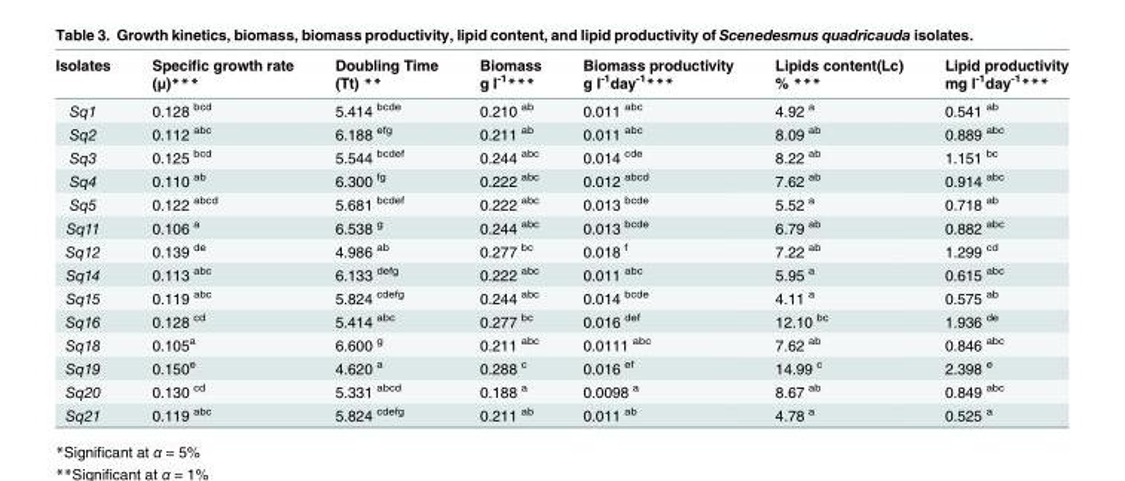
<table><thead><tr><td>Isolates</td><td>Specific growth rate (μ)***</td><td>Doubling Time (Tt) **</td><td>Biomass g l<sup>-1</sup>***</td><td>Biomass productivity g l<sup>-1</sup>day<sup>-1</sup>***</td><td>Lipids content(Lc) % ***</td><td>Lipid productivity mg l<sup>-1</sup>day<sup>-1</sup>***</td></tr></thead><tbody><tr><td>Sq1</td><td>0.128 <sup>bcd</sup></td><td>5.414 <sup>bcde</sup></td><td>0.210 <sup>ab</sup></td><td>0.011 <sup>abc</sup></td><td>4.92 <sup>a</sup></td><td>0.541 <sup>ab</sup></td></tr><tr><td>Sq2</td><td>0.112 <sup>abc</sup></td><td>6.188 <sup>efg</sup></td><td>0.211 <sup>ab</sup></td><td>0.011 <sup>abc</sup></td><td>8.09 <sup>ab</sup></td><td>0.889 <sup>abc</sup></td></tr><tr><td>Sq3</td><td>0.125 <sup>bcd</sup></td><td>5.544 <sup>bcdef</sup></td><td>0.244 <sup>abc</sup></td><td>0.014 <sup>cde</sup></td><td>8.22 <sup>ab</sup></td><td>1.151 <sup>bc</sup></td></tr><tr><td>Sq4</td><td>0.110 <sup>ab</sup></td><td>6.300 <sup>fg</sup></td><td>0.222 <sup>abc</sup></td><td>0.012 <sup>abcd</sup></td><td>7.62 <sup>ab</sup></td><td>0.914 <sup>abc</sup></td></tr><tr><td>Sq5</td><td>0.122 <sup>abcd</sup></td><td>5.681 <sup>bcdef</sup></td><td>0.222 <sup>abc</sup></td><td>0.013 <sup>bcde</sup></td><td>5.52 <sup>a</sup></td><td>0.718 <sup>ab</sup></td></tr><tr><td>Sq11</td><td>0.106 <sup>a</sup></td><td>6.538 <sup>g</sup></td><td>0.244 <sup>abc</sup></td><td>0.013 <sup>bcde</sup></td><td>6.79 <sup>ab</sup></td><td>0.882 <sup>abc</sup></td></tr><tr><td>Sq12</td><td>0.139 <sup>de</sup></td><td>4.986 <sup>ab</sup></td><td>0.277 <sup>bc</sup></td><td>0.018 <sup>f</sup></td><td>7.22 <sup>ab</sup></td><td>1.299 <sup>cd</sup></td></tr><tr><td>Sq14</td><td>0.113 <sup>abc</sup></td><td>6.133 <sup>defg</sup></td><td>0.222 <sup>abc</sup></td><td>0.011 <sup>abc</sup></td><td>5.95 <sup>a</sup></td><td>0.615 <sup>abc</sup></td></tr><tr><td>Sq15</td><td>0.119 <sup>abc</sup></td><td>5.824 <sup>cdefg</sup></td><td>0.244 <sup>abc</sup></td><td>0.014 <sup>bcde</sup></td><td>4.11 <sup>a</sup></td><td>0.575 <sup>ab</sup></td></tr><tr><td>Sq16</td><td>0.128 <sup>cd</sup></td><td>5.414 <sup>abc</sup></td><td>0.277 <sup>bc</sup></td><td>0.016 <sup>def</sup></td><td>12.10 <sup>bc</sup></td><td>1.936 <sup>de</sup></td></tr><tr><td>Sq18</td><td>0.105<sup>a</sup></td><td>6.600 <sup>g</sup></td><td>0.211 <sup>abc</sup></td><td>0.0111 <sup>abc</sup></td><td>7.62 <sup>ab</sup></td><td>0.846 <sup>abc</sup></td></tr><tr><td>Sq19</td><td>0.150<sup>e</sup></td><td>4.620 <sup>a</sup></td><td>0.288 <sup>c</sup></td><td>0.016 <sup>ef</sup></td><td>14.99 <sup>c</sup></td><td>2.398 <sup>e</sup></td></tr><tr><td>Sq20</td><td>0.130 <sup>cd</sup></td><td>5.331 <sup>abcd</sup></td><td>0.188 <sup>a</sup></td><td>0.0098 <sup>a</sup></td><td>8.67 <sup>ab</sup></td><td>0.849 <sup>abc</sup></td></tr><tr><td>Sq21</td><td>0.119 <sup>abc</sup></td><td>5.824 <sup>cdefg</sup></td><td>0.211 <sup>ab</sup></td><td>0.011 <sup>ab</sup></td><td>4.78 <sup>a</sup></td><td>0.525 <sup>a</sup></td></tr></tbody></table>